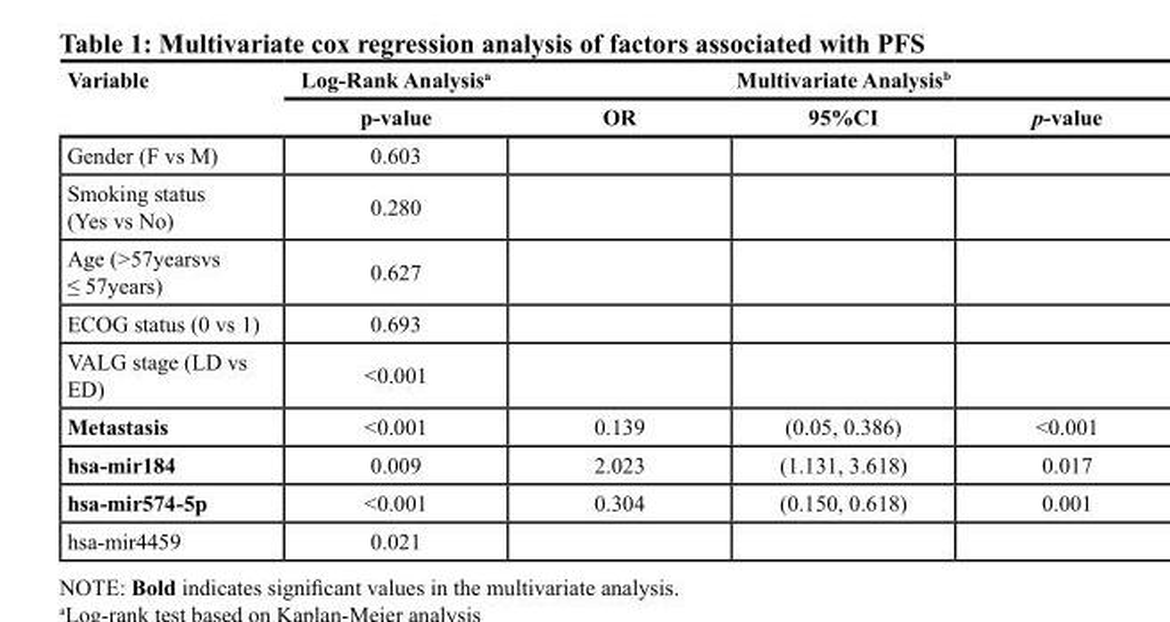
<table><thead><tr><td rowspan="2">Variable</td><td rowspan="2">Log-Rank Analysis<sup>a</sup> p-value</td><td colspan="3">Multivariate Analysis<sup>b</sup></td></tr><tr><td>OR</td><td>95%CI</td><td>p-value</td></tr></thead><tbody><tr><td>Gender (F vs M)</td><td>0.603</td><td></td><td></td><td></td></tr><tr><td>Smoking status (Yes vs No)</td><td>0.280</td><td></td><td></td><td></td></tr><tr><td>Age (&gt;57yearsvs ≤ 57years)</td><td>0.627</td><td></td><td></td><td></td></tr><tr><td>ECOG status (0 vs 1)</td><td>0.693</td><td></td><td></td><td></td></tr><tr><td>VALG stage (LD vs ED)</td><td>&lt;0.001</td><td></td><td></td><td></td></tr><tr><td>Metastasis</td><td>&lt;0.001</td><td>0.139</td><td>(0.05, 0.386)</td><td>&lt;0.001</td></tr><tr><td>hsa-mir184</td><td>0.009</td><td>2.023</td><td>(1.131, 3.618)</td><td>0.017</td></tr><tr><td>hsa-mir574-5p</td><td>&lt;0.001</td><td>0.304</td><td>(0.150, 0.618)</td><td>0.001</td></tr><tr><td>hsa-mir4459</td><td>0.021</td><td></td><td></td><td></td></tr></tbody></table>